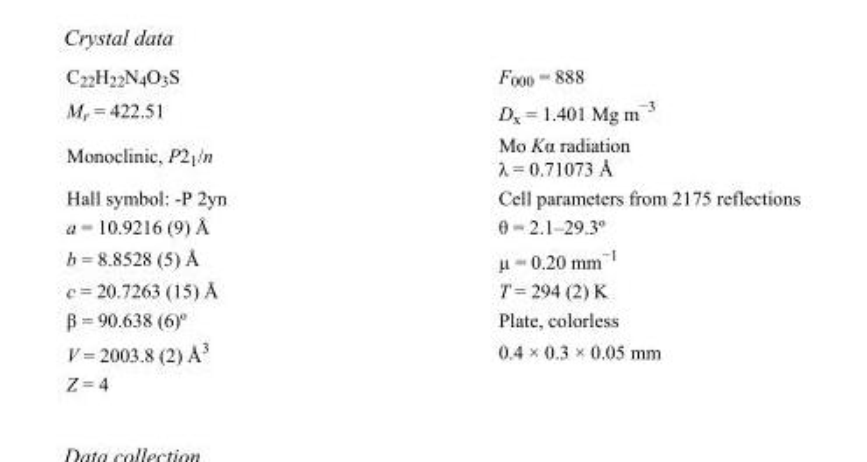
<table><tbody><tr><td>C<sub>22</sub>H<sub>22</sub>N<sub>4</sub>O<sub>3</sub>S</td><td>F<sub>000</sub> = 888</td></tr><tr><td>M<sub>r</sub> = 422.51</td><td>D<sub>x</sub> = 1.401 Mg m<sup>−3</sup></td></tr><tr><td>Monoclinic, P2<sub>1</sub>/n</td><td>Mo Kα radiation λ = 0.71073 Å</td></tr><tr><td>Hall symbol: -P 2yn</td><td>Cell parameters from 2175 reflections</td></tr><tr><td>a = 10.9216 (9) Å</td><td>θ = 2.1–29.3º</td></tr><tr><td>b = 8.8528 (5) Å</td><td>µ = 0.20 mm<sup>−1</sup></td></tr><tr><td>c = 20.7263 (15) Å</td><td>T = 294 (2) K</td></tr><tr><td>β = 90.638 (6)º</td><td>Plate, colorless</td></tr><tr><td>V = 2003.8 (2) Å<sup>3</sup></td><td>0.4 × 0.3 × 0.05 mm</td></tr><tr><td>Z = 4</td><td></td></tr></tbody></table>